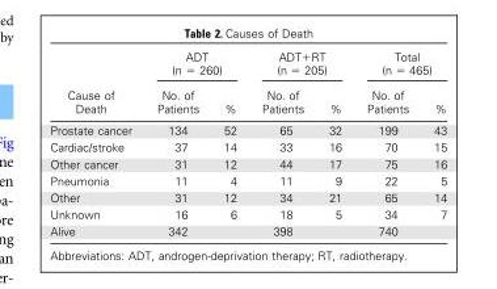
<table><thead><tr><td rowspan="2">Cause of Death</td><td colspan="2">ADT (n = 260)</td><td colspan="2">ADT+RT (n = 205)</td><td colspan="2">Total (n = 465)</td></tr><tr><td>No. of Patients</td><td>%</td><td>No. of Patients</td><td>%</td><td>No. of Patients</td><td>%</td></tr></thead><tbody><tr><td>Prostate cancer</td><td>134</td><td>52</td><td>65</td><td>32</td><td>199</td><td>43</td></tr><tr><td>Cardiac/stroke</td><td>37</td><td>14</td><td>33</td><td>16</td><td>70</td><td>15</td></tr><tr><td>Other cancer</td><td>31</td><td>12</td><td>44</td><td>17</td><td>75</td><td>16</td></tr><tr><td>Pneumonia</td><td>11</td><td>4</td><td>11</td><td>9</td><td>22</td><td>5</td></tr><tr><td>Other</td><td>31</td><td>12</td><td>34</td><td>21</td><td>65</td><td>14</td></tr><tr><td>Unknown</td><td>16</td><td>6</td><td>18</td><td>5</td><td>34</td><td>7</td></tr><tr><td>Alive</td><td>342</td><td></td><td>398</td><td></td><td>740</td><td></td></tr></tbody></table>